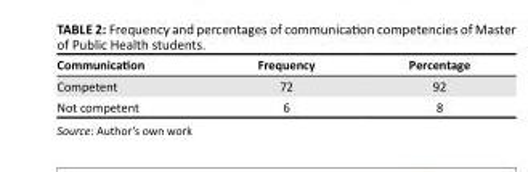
<table><thead><tr><td>Communication</td><td>Frequency</td><td>Percentage</td></tr></thead><tbody><tr><td>Competent</td><td>72</td><td>92</td></tr><tr><td>Not competent</td><td>6</td><td>8</td></tr></tbody></table>